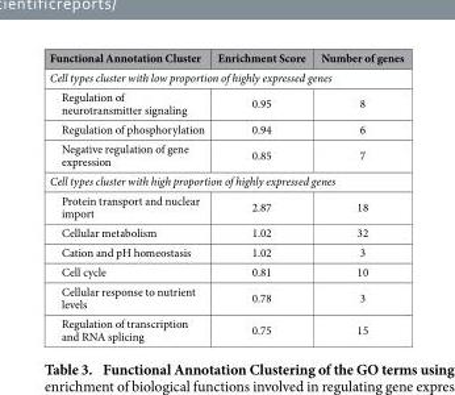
<table><thead><tr><td>Functional Annotation Cluster</td><td>Enrichment Score</td><td>Number of genes</td></tr></thead><tbody><tr><td colspan="3">Cell types cluster with low proportion of highly expressed genes</td></tr><tr><td>Regulation of neurotransmitter signaling</td><td>0.95</td><td>8</td></tr><tr><td>Regulation of phosphorylation</td><td>0.94</td><td>6</td></tr><tr><td>Negative regulation of gene expression</td><td>0.85</td><td>7</td></tr><tr><td colspan="3">Cell types cluster with high proportion of highly expressed genes</td></tr><tr><td>Protein transport and nuclear import</td><td>2.87</td><td>18</td></tr><tr><td>Cellular metabolism</td><td>1.02</td><td>32</td></tr><tr><td>Cation and pH homeostasis</td><td>1.02</td><td>3</td></tr><tr><td>Cell cycle</td><td>0.81</td><td>10</td></tr><tr><td>Cellular response to nutrient levels</td><td>0.78</td><td>3</td></tr><tr><td>Regulation of transcription and RNA splicing</td><td>0.75</td><td>15</td></tr></tbody></table>